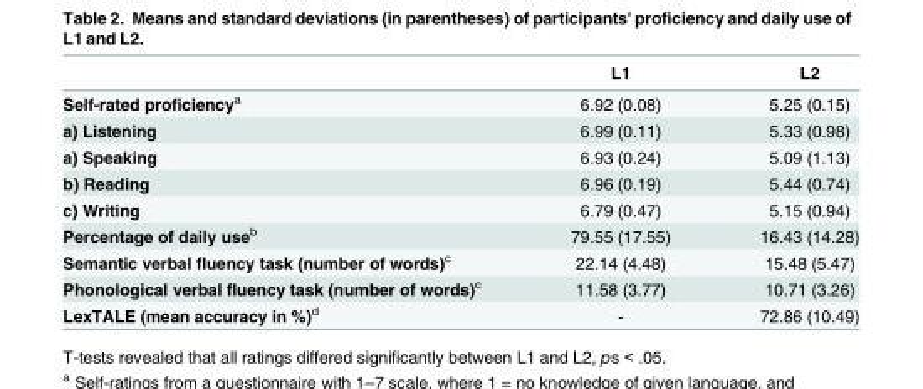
<table><thead><tr><td></td><td>L1</td><td>L2</td></tr></thead><tbody><tr><td>Self-rated proficiency<sup>a</sup></td><td>6.92 (0.08)</td><td>5.25 (0.15)</td></tr><tr><td>a) Listening</td><td>6.99 (0.11)</td><td>5.33 (0.98)</td></tr><tr><td>a) Speaking</td><td>6.93 (0.24)</td><td>5.09 (1.13)</td></tr><tr><td>b) Reading</td><td>6.96 (0.19)</td><td>5.44 (0.74)</td></tr><tr><td>c) Writing</td><td>6.79 (0.47)</td><td>5.15 (0.94)</td></tr><tr><td>Percentage of daily use<sup>b</sup></td><td>79.55 (17.55)</td><td>16.43 (14.28)</td></tr><tr><td>Semantic verbal fluency task (number of words)<sup>c</sup></td><td>22.14 (4.48)</td><td>15.48 (5.47)</td></tr><tr><td>Phonological verbal fluency task (number of words)<sup>c</sup></td><td>11.58 (3.77)</td><td>10.71 (3.26)</td></tr><tr><td>LexTALE (mean accuracy in %)<sup>d</sup></td><td>-</td><td>72.86 (10.49)</td></tr></tbody></table>